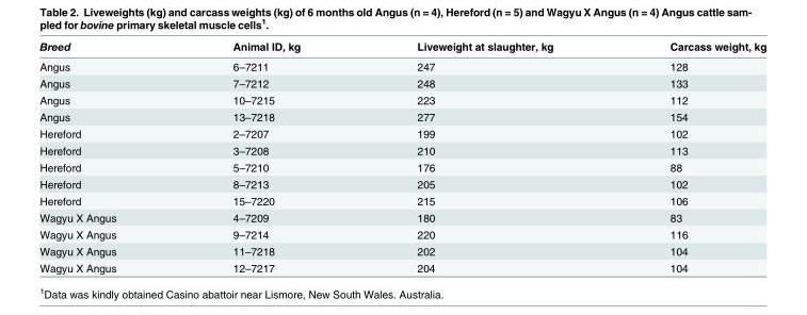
<table><thead><tr><td>Breed</td><td>Animal ID, kg</td><td>Liveweight at slaughter, kg</td><td>Carcass weight, kg</td></tr></thead><tbody><tr><td>Angus</td><td>6–7211</td><td>247</td><td>128</td></tr><tr><td>Angus</td><td>7–7212</td><td>248</td><td>133</td></tr><tr><td>Angus</td><td>10–7215</td><td>223</td><td>112</td></tr><tr><td>Angus</td><td>13–7218</td><td>277</td><td>154</td></tr><tr><td>Hereford</td><td>2–7207</td><td>199</td><td>102</td></tr><tr><td>Hereford</td><td>3–7208</td><td>210</td><td>113</td></tr><tr><td>Hereford</td><td>5–7210</td><td>176</td><td>88</td></tr><tr><td>Hereford</td><td>8–7213</td><td>205</td><td>102</td></tr><tr><td>Hereford</td><td>15–7220</td><td>215</td><td>106</td></tr><tr><td>Wagyu X Angus</td><td>4–7209</td><td>180</td><td>83</td></tr><tr><td>Wagyu X Angus</td><td>9–7214</td><td>220</td><td>116</td></tr><tr><td>Wagyu X Angus</td><td>11–7218</td><td>202</td><td>104</td></tr><tr><td>Wagyu X Angus</td><td>12–7217</td><td>204</td><td>104</td></tr></tbody></table>